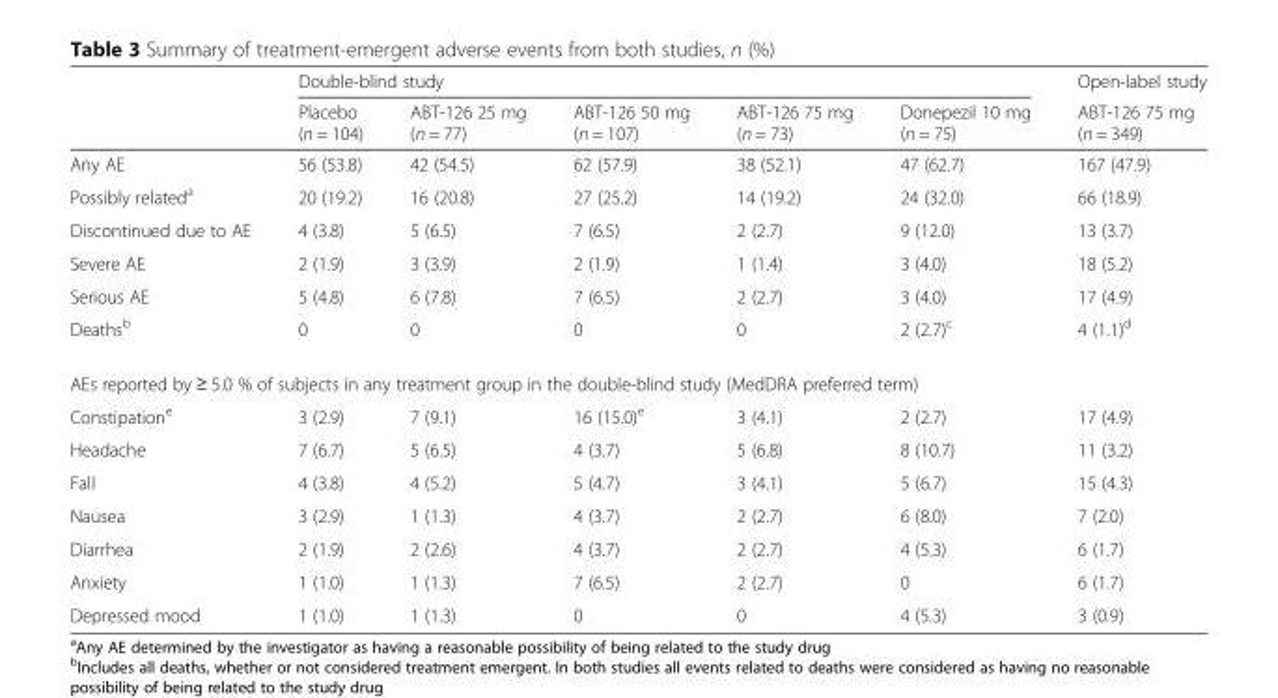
<table><thead><tr><td rowspan="2"></td><td colspan="5">Double-blind study</td><td rowspan="2">Open-label study ABT-126 75 mg (n = 349)</td></tr><tr><td>Placebo (n = 104)</td><td>ABT-126 25 mg (n = 77)</td><td>ABT-126 50 mg (n = 107)</td><td>ABT-126 75 mg (n = 73)</td><td>Donepezil 10 mg (n = 75)</td></tr></thead><tbody><tr><td>Any AE</td><td>56 (53.8)</td><td>42 (54.5)</td><td>62 (57.9)</td><td>38 (52.1)</td><td>47 (62.7)</td><td>167 (47.9)</td></tr><tr><td>Possibly related<sup>a</sup></td><td>20 (19.2)</td><td>16 (20.8)</td><td>27 (25.2)</td><td>14 (19.2)</td><td>24 (32.0)</td><td>66 (18.9)</td></tr><tr><td>Discontinued due to AE</td><td>4 (3.8)</td><td>5 (6.5)</td><td>7 (6.5)</td><td>2 (2.7)</td><td>9 (12.0)</td><td>13 (3.7)</td></tr><tr><td>Severe AE</td><td>2 (1.9)</td><td>3 (3.9)</td><td>2 (1.9)</td><td>1 (1.4)</td><td>3 (4.0)</td><td>18 (5.2)</td></tr><tr><td>Serious AE</td><td>5 (4.8)</td><td>6 (7.8)</td><td>7 (6.5)</td><td>2 (2.7)</td><td>3 (4.0)</td><td>17 (4.9)</td></tr><tr><td>Deaths<sup>b</sup></td><td>0</td><td>0</td><td>0</td><td>0</td><td>2 (2.7)<sup>c</sup></td><td>4 (1.1)<sup>d</sup></td></tr><tr><td colspan="7">AEs reported by ≥ 5.0 % of subjects in any treatment group in the double-blind study (MedDRA preferred term)</td></tr><tr><td>Constipation<sup>e</sup></td><td>3 (2.9)</td><td>7 (9.1)</td><td>16 (15.0)<sup>e</sup></td><td>3 (4.1)</td><td>2 (2.7)</td><td>17 (4.9)</td></tr><tr><td>Headache</td><td>7 (6.7)</td><td>5 (6.5)</td><td>4 (3.7)</td><td>5 (6.8)</td><td>8 (10.7)</td><td>11 (3.2)</td></tr><tr><td>Fall</td><td>4 (3.8)</td><td>4 (5.2)</td><td>5 (4.7)</td><td>3 (4.1)</td><td>5 (6.7)</td><td>15 (4.3)</td></tr><tr><td>Nausea</td><td>3 (2.9)</td><td>1 (1.3)</td><td>4 (3.7)</td><td>2 (2.7)</td><td>6 (8.0)</td><td>7 (2.0)</td></tr><tr><td>Diarrhea</td><td>2 (1.9)</td><td>2 (2.6)</td><td>4 (3.7)</td><td>2 (2.7)</td><td>4 (5.3)</td><td>6 (1.7)</td></tr><tr><td>Anxiety</td><td>1 (1.0)</td><td>1 (1.3)</td><td>7 (6.5)</td><td>2 (2.7)</td><td>0</td><td>6 (1.7)</td></tr><tr><td>Depressed mood</td><td>1 (1.0)</td><td>1 (1.3)</td><td>0</td><td>0</td><td>4 (5.3)</td><td>3 (0.9)</td></tr></tbody></table>